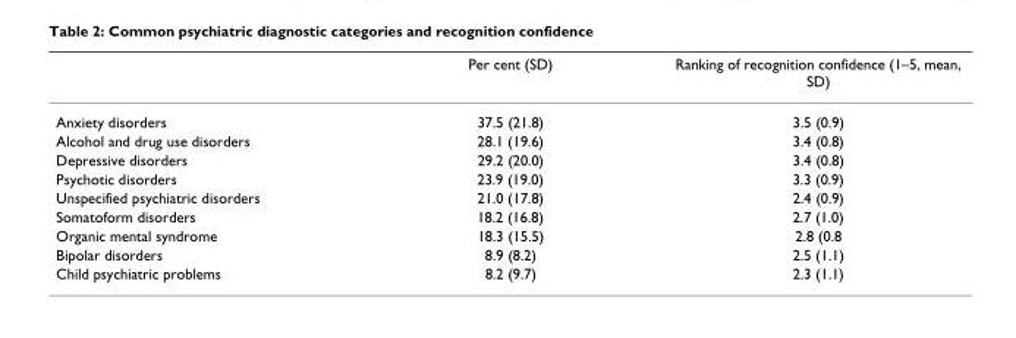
<table><thead><tr><td></td><td>Per cent (SD)</td><td>Ranking of recognition confidence (1–5, mean, SD)</td></tr></thead><tbody><tr><td>Anxiety disorders</td><td>37.5 (21.8)</td><td>3.5 (0.9)</td></tr><tr><td>Alcohol and drug use disorders</td><td>28.1 (19.6)</td><td>3.4 (0.8)</td></tr><tr><td>Depressive disorders</td><td>29.2 (20.0)</td><td>3.4 (0.8)</td></tr><tr><td>Psychotic disorders</td><td>23.9 (19.0)</td><td>3.3 (0.9)</td></tr><tr><td>Unspecified psychiatric disorders</td><td>21.0 (17.8)</td><td>2.4 (0.9)</td></tr><tr><td>Somatoform disorders</td><td>18.2 (16.8)</td><td>2.7 (1.0)</td></tr><tr><td>Organic mental syndrome</td><td>18.3 (15.5)</td><td>2.8 (0.8</td></tr><tr><td>Bipolar disorders</td><td>8.9 (8.2)</td><td>2.5 (1.1)</td></tr><tr><td>Child psychiatric problems</td><td>8.2 (9.7)</td><td>2.3 (1.1)</td></tr></tbody></table>